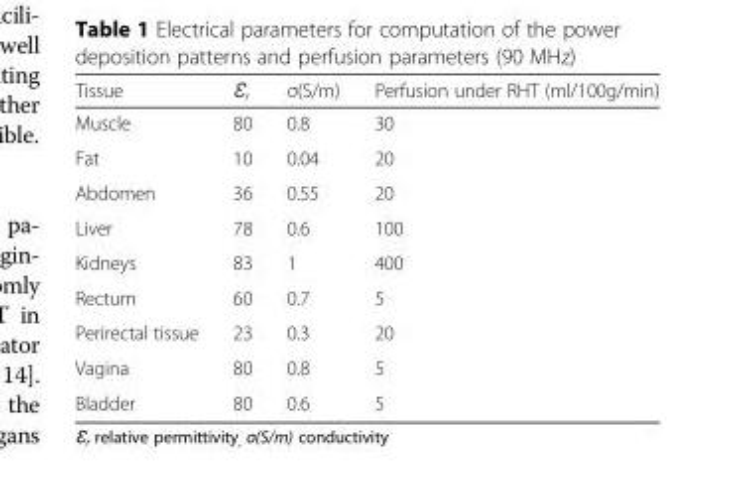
<table><thead><tr><td>Tissue</td><td>Ɛ<sub>r</sub></td><td>σ(S/m)</td><td>Perfusion under RHT (ml/100g/min)</td></tr></thead><tbody><tr><td>Muscle</td><td>80</td><td>0.8</td><td>30</td></tr><tr><td>Fat</td><td>10</td><td>0.04</td><td>20</td></tr><tr><td>Abdomen</td><td>36</td><td>0.55</td><td>20</td></tr><tr><td>Liver</td><td>78</td><td>0.6</td><td>100</td></tr><tr><td>Kidneys</td><td>83</td><td>1</td><td>400</td></tr><tr><td>Rectum</td><td>60</td><td>0.7</td><td>5</td></tr><tr><td>Perirectal tissue</td><td>23</td><td>0.3</td><td>20</td></tr><tr><td>Vagina</td><td>80</td><td>0.8</td><td>5</td></tr><tr><td>Bladder</td><td>80</td><td>0.6</td><td>5</td></tr></tbody></table>